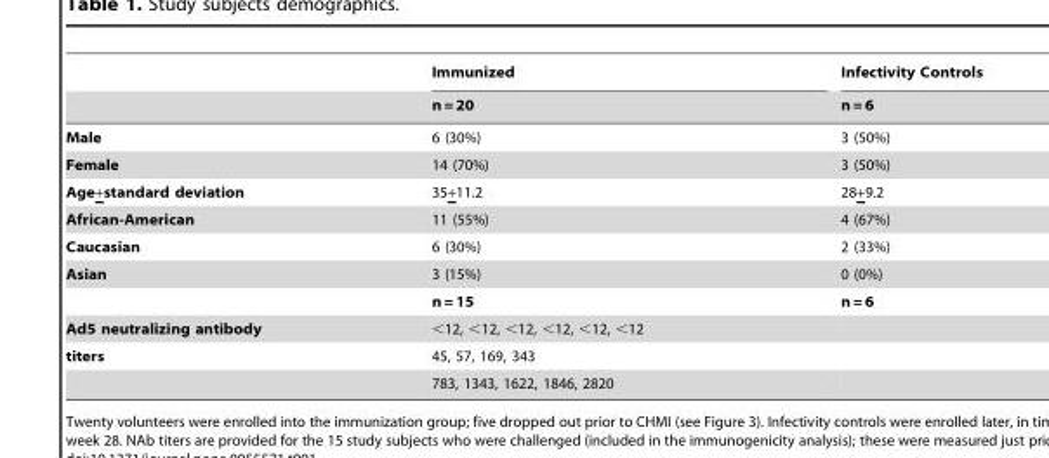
<table><thead><tr><td rowspan="2"></td><td rowspan="2">Immunized n = 20</td><td rowspan="2">Infectivity Controls n = 6</td></tr><tr></tr></thead><tbody><tr><td>Male</td><td>6 (30%)</td><td>3 (50%)</td></tr><tr><td>Female</td><td>14 (70%)</td><td>3 (50%)</td></tr><tr><td>Age+standard deviation</td><td>35+11.2</td><td>28+9.2</td></tr><tr><td>African-American</td><td>11 (55%)</td><td>4 (67%)</td></tr><tr><td>Caucasian</td><td>6 (30%)</td><td>2 (33%)</td></tr><tr><td rowspan="2">Asian</td><td>3 (15%)</td><td>0 (0%)</td></tr><tr><td>n = 15</td><td>n = 6</td></tr><tr><td>Ad5 neutralizing antibody</td><td>&lt;12, &lt;12, &lt;12, &lt;12, &lt;12, &lt;12</td><td></td></tr><tr><td rowspan="2">titers</td><td>45, 57, 169, 343</td><td></td></tr><tr><td>783, 1343, 1622, 1846, 2820</td><td></td></tr></tbody></table>